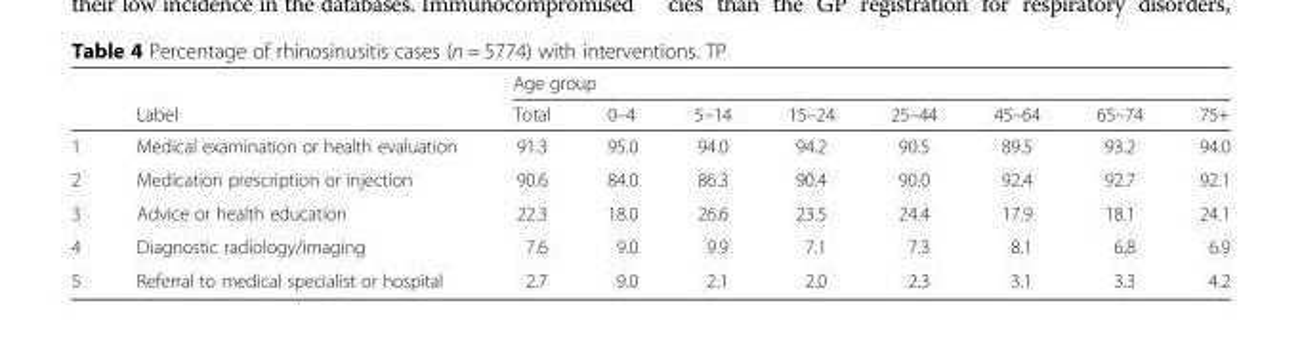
<table><thead><tr><td rowspan="2"></td><td rowspan="2">Label</td><td colspan="8">Age group</td></tr><tr><td>Total</td><td>0–4</td><td>5–14</td><td>15–24</td><td>25–44</td><td>45–64</td><td>65–74</td><td>75+</td></tr></thead><tbody><tr><td>1</td><td>Medical examination or health evaluation</td><td>91.3</td><td>95.0</td><td>94.0</td><td>94.2</td><td>90.5</td><td>89.5</td><td>93.2</td><td>94.0</td></tr><tr><td>2</td><td>Medication prescription or injection</td><td>90.6</td><td>84.0</td><td>86.3</td><td>90.4</td><td>90.0</td><td>92.4</td><td>92.7</td><td>92.1</td></tr><tr><td>3</td><td>Advice or health education</td><td>22.3</td><td>18.0</td><td>26.6</td><td>23.5</td><td>24.4</td><td>17.9</td><td>18.1</td><td>24.1</td></tr><tr><td>4</td><td>Diagnostic radiology/imaging</td><td>7.6</td><td>9.0</td><td>9.9</td><td>7.1</td><td>7.3</td><td>8.1</td><td>6.8</td><td>6.9</td></tr><tr><td>5</td><td>Referral to medical specialist or hospital</td><td>2.7</td><td>9.0</td><td>2.1</td><td>2.0</td><td>2.3</td><td>3.1</td><td>3.3</td><td>4.2</td></tr></tbody></table>